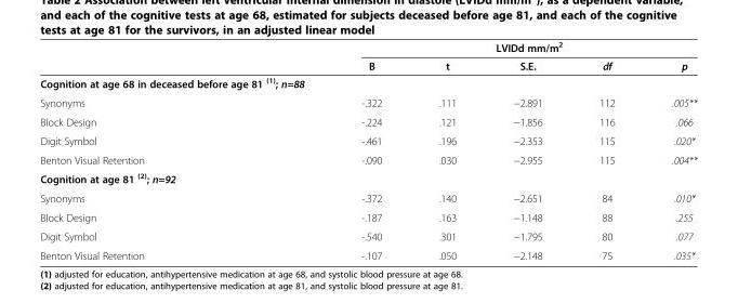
<table><thead><tr><td rowspan="2"></td><td colspan="5">LVIDd mm/m<sup>2</sup></td></tr><tr><td>B</td><td>t</td><td>S.E.</td><td>df</td><td>p</td></tr></thead><tbody><tr><td colspan="6">Cognition at age 68 in deceased before age 81 <sup>(1)</sup>; n=88</td></tr><tr><td>Synonyms</td><td>-.322</td><td>.111</td><td>−2.891</td><td>112</td><td>.005**</td></tr><tr><td>Block Design</td><td>-.224</td><td>.121</td><td>−1.856</td><td>116</td><td>.066</td></tr><tr><td>Digit Symbol</td><td>-.461</td><td>.196</td><td>−2.353</td><td>115</td><td>.020*</td></tr><tr><td>Benton Visual Retention</td><td>-.090</td><td>.030</td><td>−2.955</td><td>115</td><td>.004**</td></tr><tr><td colspan="6">Cognition at age 81 <sup>(2)</sup>; n=92</td></tr><tr><td>Synonyms</td><td>-.372</td><td>.140</td><td>−2.651</td><td>84</td><td>.010*</td></tr><tr><td>Block Design</td><td>-.187</td><td>.163</td><td>−1.148</td><td>88</td><td>.255</td></tr><tr><td>Digit Symbol</td><td>-.540</td><td>.301</td><td>−1.795</td><td>80</td><td>.077</td></tr><tr><td>Benton Visual Retention</td><td>-.107</td><td>.050</td><td>−2.148</td><td>75</td><td>.035*</td></tr></tbody></table>